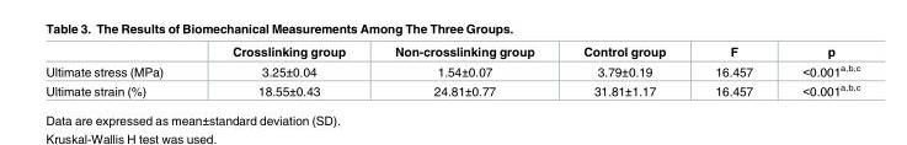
<table><thead><tr><td></td><td>Crosslinking group</td><td>Non-crosslinking group</td><td>Control group</td><td>F</td><td>p</td></tr></thead><tbody><tr><td>Ultimate stress (MPa)</td><td>3.25±0.04</td><td>1.54±0.07</td><td>3.79±0.19</td><td>16.457</td><td>&lt;0.001<sup>a,b,c</sup></td></tr><tr><td>Ultimate strain (%)</td><td>18.55±0.43</td><td>24.81±0.77</td><td>31.81±1.17</td><td>16.457</td><td>&lt;0.001<sup>a,b,c</sup></td></tr></tbody></table>